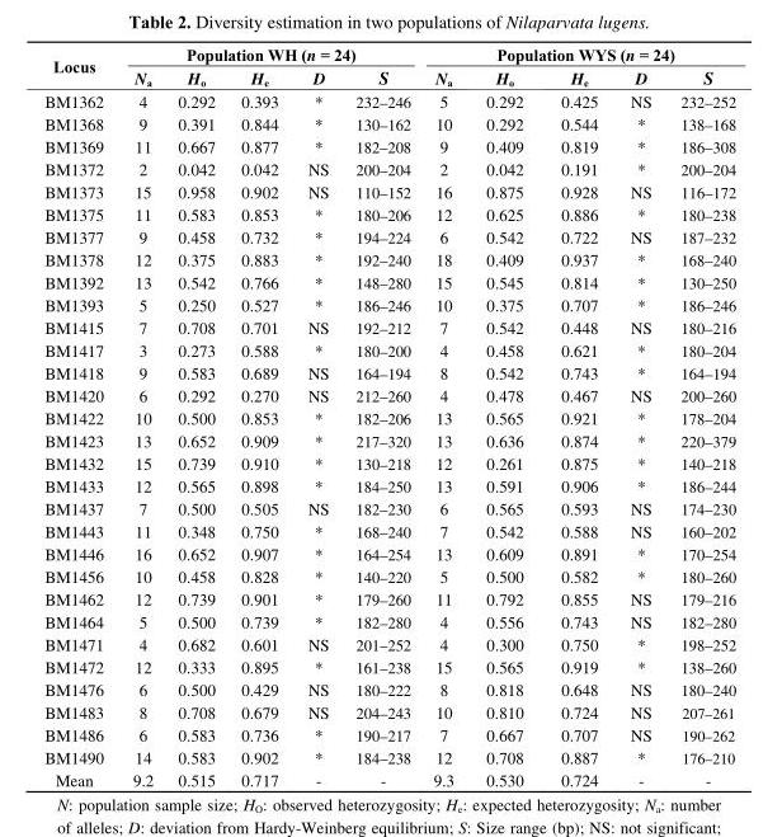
<table><thead><tr><td rowspan="2">Locus</td><td colspan="5">Population WH (n = 24)</td><td colspan="5">Population WYS (n = 24)</td></tr><tr><td>N<sub>a</sub></td><td>H<sub>o</sub></td><td>H<sub>e</sub></td><td>D</td><td>S</td><td>N<sub>a</sub></td><td>H<sub>o</sub></td><td>H<sub>e</sub></td><td>D</td><td>S</td></tr></thead><tbody><tr><td>BM1362</td><td>4</td><td>0.292</td><td>0.393</td><td>*</td><td>232–246</td><td>5</td><td>0.292</td><td>0.425</td><td>NS</td><td>232–252</td></tr><tr><td>BM1368</td><td>9</td><td>0.391</td><td>0.844</td><td>*</td><td>130–162</td><td>10</td><td>0.292</td><td>0.544</td><td>*</td><td>138–168</td></tr><tr><td>BM1369</td><td>11</td><td>0.667</td><td>0.877</td><td>*</td><td>182–208</td><td>9</td><td>0.409</td><td>0.819</td><td>*</td><td>186–308</td></tr><tr><td>BM1372</td><td>2</td><td>0.042</td><td>0.042</td><td>NS</td><td>200–204</td><td>2</td><td>0.042</td><td>0.191</td><td>*</td><td>200–204</td></tr><tr><td>BM1373</td><td>15</td><td>0.958</td><td>0.902</td><td>NS</td><td>110–152</td><td>16</td><td>0.875</td><td>0.928</td><td>NS</td><td>116–172</td></tr><tr><td>BM1375</td><td>11</td><td>0.583</td><td>0.853</td><td>*</td><td>180–206</td><td>12</td><td>0.625</td><td>0.886</td><td>*</td><td>180–238</td></tr><tr><td>BM1377</td><td>9</td><td>0.458</td><td>0.732</td><td>*</td><td>194–224</td><td>6</td><td>0.542</td><td>0.722</td><td>NS</td><td>187–232</td></tr><tr><td>BM1378</td><td>12</td><td>0.375</td><td>0.883</td><td>*</td><td>192–240</td><td>18</td><td>0.409</td><td>0.937</td><td>*</td><td>168–240</td></tr><tr><td>BM1392</td><td>13</td><td>0.542</td><td>0.766</td><td>*</td><td>148–280</td><td>15</td><td>0.545</td><td>0.814</td><td>*</td><td>130–250</td></tr><tr><td>BM1393</td><td>5</td><td>0.250</td><td>0.527</td><td>*</td><td>186–246</td><td>10</td><td>0.375</td><td>0.707</td><td>*</td><td>186–246</td></tr><tr><td>BM1415</td><td>7</td><td>0.708</td><td>0.701</td><td>NS</td><td>192–212</td><td>7</td><td>0.542</td><td>0.448</td><td>NS</td><td>180–216</td></tr><tr><td>BM1417</td><td>3</td><td>0.273</td><td>0.588</td><td>*</td><td>180–200</td><td>4</td><td>0.458</td><td>0.621</td><td>*</td><td>180–204</td></tr><tr><td>BM1418</td><td>9</td><td>0.583</td><td>0.689</td><td>NS</td><td>164–194</td><td>8</td><td>0.542</td><td>0.743</td><td>*</td><td>164–194</td></tr><tr><td>BM1420</td><td>6</td><td>0.292</td><td>0.270</td><td>NS</td><td>212–260</td><td>4</td><td>0.478</td><td>0.467</td><td>NS</td><td>200–260</td></tr><tr><td>BM1422</td><td>10</td><td>0.500</td><td>0.853</td><td>*</td><td>182–206</td><td>13</td><td>0.565</td><td>0.921</td><td>*</td><td>178–204</td></tr><tr><td>BM1423</td><td>13</td><td>0.652</td><td>0.909</td><td>*</td><td>217–320</td><td>13</td><td>0.636</td><td>0.874</td><td>*</td><td>220–379</td></tr><tr><td>BM1432</td><td>15</td><td>0.739</td><td>0.910</td><td>*</td><td>130–218</td><td>12</td><td>0.261</td><td>0.875</td><td>*</td><td>140–218</td></tr><tr><td>BM1433</td><td>12</td><td>0.565</td><td>0.898</td><td>*</td><td>184–250</td><td>13</td><td>0.591</td><td>0.906</td><td>*</td><td>186–244</td></tr><tr><td>BM1437</td><td>7</td><td>0.500</td><td>0.505</td><td>NS</td><td>182–230</td><td>6</td><td>0.565</td><td>0.593</td><td>NS</td><td>174–230</td></tr><tr><td>BM1443</td><td>11</td><td>0.348</td><td>0.750</td><td>*</td><td>168–240</td><td>7</td><td>0.542</td><td>0.588</td><td>NS</td><td>160–202</td></tr><tr><td>BM1446</td><td>16</td><td>0.652</td><td>0.907</td><td>*</td><td>164–254</td><td>13</td><td>0.609</td><td>0.891</td><td>*</td><td>170–254</td></tr><tr><td>BM1456</td><td>10</td><td>0.458</td><td>0.828</td><td>*</td><td>140–220</td><td>5</td><td>0.500</td><td>0.582</td><td>*</td><td>180–260</td></tr><tr><td>BM1462</td><td>12</td><td>0.739</td><td>0.901</td><td>*</td><td>179–260</td><td>11</td><td>0.792</td><td>0.855</td><td>NS</td><td>179–216</td></tr><tr><td>BM1464</td><td>5</td><td>0.500</td><td>0.739</td><td>*</td><td>182–280</td><td>4</td><td>0.556</td><td>0.743</td><td>NS</td><td>182–280</td></tr><tr><td>BM1471</td><td>4</td><td>0.682</td><td>0.601</td><td>NS</td><td>201–252</td><td>4</td><td>0.300</td><td>0.750</td><td>*</td><td>198–252</td></tr><tr><td>BM1472</td><td>12</td><td>0.333</td><td>0.895</td><td>*</td><td>161–238</td><td>15</td><td>0.565</td><td>0.919</td><td>*</td><td>138–260</td></tr><tr><td>BM1476</td><td>6</td><td>0.500</td><td>0.429</td><td>NS</td><td>180–222</td><td>8</td><td>0.818</td><td>0.648</td><td>NS</td><td>180–240</td></tr><tr><td>BM1483</td><td>8</td><td>0.708</td><td>0.679</td><td>NS</td><td>204–243</td><td>10</td><td>0.810</td><td>0.724</td><td>NS</td><td>207–261</td></tr><tr><td>BM1486</td><td>6</td><td>0.583</td><td>0.736</td><td>*</td><td>190–217</td><td>7</td><td>0.667</td><td>0.707</td><td>NS</td><td>190–262</td></tr><tr><td>BM1490</td><td>14</td><td>0.583</td><td>0.902</td><td>*</td><td>184–238</td><td>12</td><td>0.708</td><td>0.887</td><td>*</td><td>176–210</td></tr><tr><td>Mean</td><td>9.2</td><td>0.515</td><td>0.717</td><td>-</td><td>-</td><td>9.3</td><td>0.530</td><td>0.724</td><td>-</td><td>-</td></tr></tbody></table>